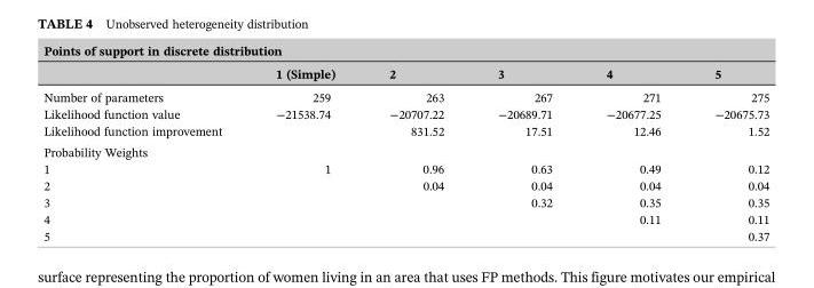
<table><thead><tr><td colspan="6">Points of support in discrete distribution</td></tr><tr><td></td><td>1 (Simple)</td><td>2</td><td>3</td><td>4</td><td>5</td></tr></thead><tbody><tr><td>Number of parameters</td><td>259</td><td>263</td><td>267</td><td>271</td><td>275</td></tr><tr><td>Likelihood function value</td><td>−21538.74</td><td>−20707.22</td><td>−20689.71</td><td>−20677.25</td><td>−20675.73</td></tr><tr><td>Likelihood function improvement</td><td></td><td>831.52</td><td>17.51</td><td>12.46</td><td>1.52</td></tr><tr><td colspan="6">Probability Weights</td></tr><tr><td>1</td><td>1</td><td>0.96</td><td>0.63</td><td>0.49</td><td>0.12</td></tr><tr><td>2</td><td></td><td>0.04</td><td>0.04</td><td>0.04</td><td>0.04</td></tr><tr><td>3</td><td></td><td></td><td>0.32</td><td>0.35</td><td>0.35</td></tr><tr><td>4</td><td></td><td></td><td></td><td>0.11</td><td>0.11</td></tr><tr><td>5</td><td></td><td></td><td></td><td></td><td>0.37</td></tr></tbody></table>